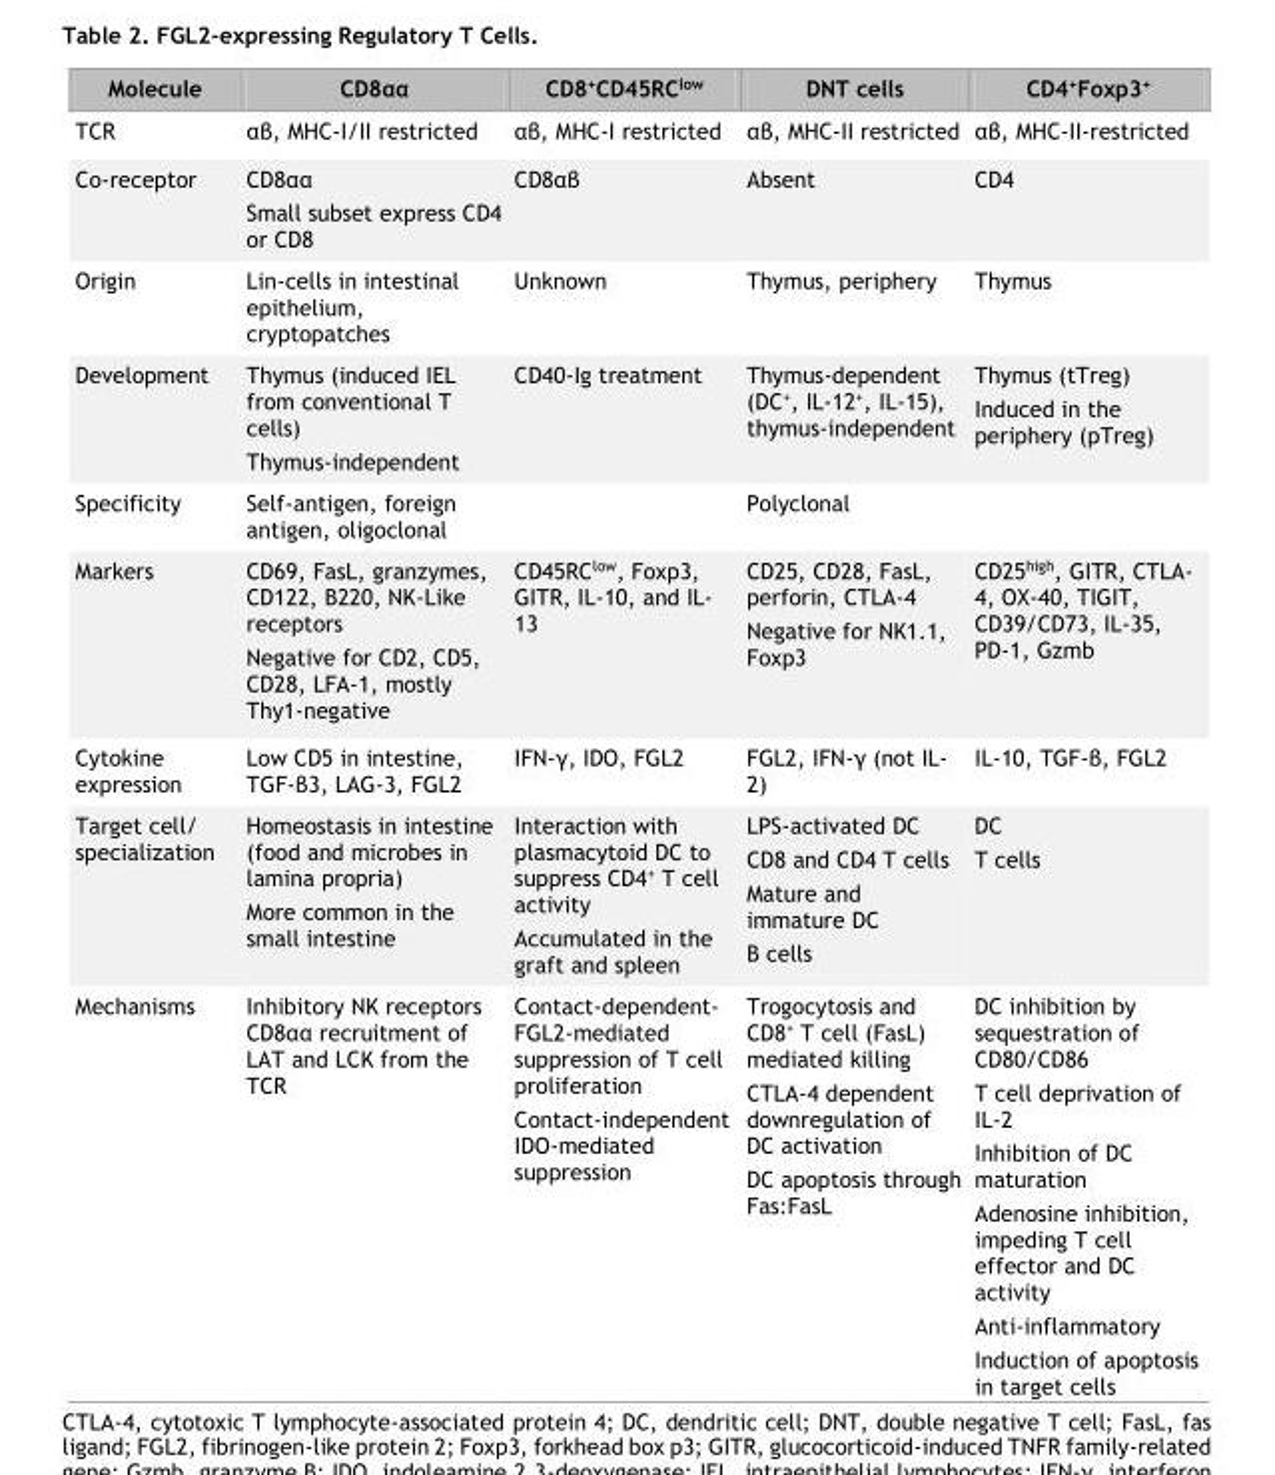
<table><thead><tr><td>Molecule</td><td>CD8αα</td><td>CD8<sup>+</sup>CD45RC<sup>low</sup></td><td>DNT cells</td><td>CD4<sup>+</sup>Foxp3<sup>+</sup></td></tr></thead><tbody><tr><td>TCR</td><td>αβ, MHC-I/II restricted</td><td>αβ, MHC-I restricted</td><td>αβ, MHC-II restricted</td><td>αβ, MHC-II-restricted</td></tr><tr><td>Co-receptor</td><td>CD8αα Small subset express CD4 or CD8</td><td>CD8αβ</td><td>Absent</td><td>CD4</td></tr><tr><td>Origin</td><td>Lin-cells in intestinal epithelium, cryptopatches</td><td>Unknown</td><td>Thymus, periphery</td><td>Thymus</td></tr><tr><td>Development</td><td>Thymus (induced IEL from conventional T cells) Thymus-independent</td><td>CD40-Ig treatment</td><td>Thymus-dependent (DC<sup>+</sup>, IL-12<sup>+</sup>, IL-15), thymus-independent</td><td>Thymus (tTreg) Induced in the periphery (pTreg)</td></tr><tr><td>Specificity</td><td>Self-antigen, foreign antigen, oligoclonal</td><td></td><td>Polyclonal</td><td></td></tr><tr><td>Markers</td><td>CD69, FasL, granzymes, CD122, B220, NK-Like receptors Negative for CD2, CD5, CD28, LFA-1, mostly Thy1-negative</td><td>CD45RC<sup>low</sup>, Foxp3, GITR, IL-10, and IL- 13</td><td>CD25, CD28, FasL, perforin, CTLA-4 Negative for NK1.1, Foxp3</td><td>CD25<sup>high</sup>, GITR, CTLA- 4, OX-40, TIGIT, CD39/CD73, IL-35, PD-1, Gzmb</td></tr><tr><td>Cytokine expression</td><td>Low CD5 in intestine, TGF-β3, LAG-3, FGL2</td><td>IFN-γ, IDO, FGL2</td><td>FGL2, IFN-γ (not IL- 2)</td><td>IL-10, TGF-β, FGL2</td></tr><tr><td>Target cell/ specialization</td><td>Homeostasis in intestine (food and microbes in lamina propria) More common in the small intestine</td><td>Interaction with plasmacytoid DC to suppress CD4<sup>+</sup> T cell activity Accumulated in the graft and spleen</td><td>LPS-activated DC CD8 and CD4 T cells Mature and immature DC B cells</td><td>DC T cells</td></tr><tr><td>Mechanisms</td><td>Inhibitory NK receptors CD8αα recruitment of LAT and LCK from the TCR</td><td>Contact-dependent- FGL2-mediated suppression of T cell proliferation Contact-independent IDO-mediated suppression</td><td>Trogocytosis and CD8<sup>+</sup> T cell (FasL) mediated killing CTLA-4 dependent downregulation of DC activation DC apoptosis through Fas:FasL</td><td>DC inhibition by sequestration of CD80/CD86 T cell deprivation of IL-2 Inhibition of DC maturation Adenosine inhibition, impeding T cell effector and DC activity Anti-inflammatory Induction of apoptosis in target cells</td></tr></tbody></table>